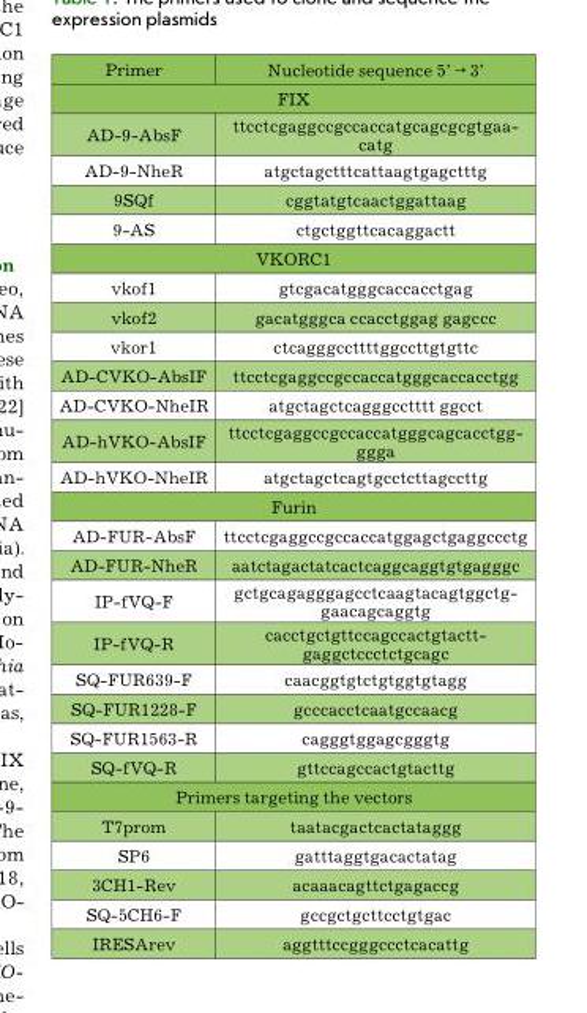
<table><thead><tr><td>Primer</td><td>Nucleotide sequence 5’ → 3’</td></tr></thead><tbody><tr><td colspan="2">FIX</td></tr><tr><td>AD-9-AbsF</td><td>ttcctcgaggccgccaccatgcagcgcgtgaa- catg</td></tr><tr><td>AD-9-NheR</td><td>atgctagctttcattaagtgagctttg</td></tr><tr><td>9SQf</td><td>cggtatgtcaactggattaag</td></tr><tr><td>9-AS</td><td>ctgctggttcacaggactt</td></tr><tr><td colspan="2">VKORC1</td></tr><tr><td>vkof1</td><td>gtcgacatgggcaccacctgag</td></tr><tr><td>vkof2</td><td>gacatgggca ccacctggag gagccc</td></tr><tr><td>vkor1</td><td>ctcagggccttttggccttgtgttc</td></tr><tr><td>AD-CVKO-AbsIF</td><td>ttcctcgaggccgccaccatgggcaccacctgg</td></tr><tr><td>AD-CVKO-NheIR</td><td>atgctagctcagggcctttt ggcct</td></tr><tr><td>AD-hVKO-AbsIF</td><td>ttcctcgaggccgccaccatgggcagcacctgg- ggga</td></tr><tr><td>AD-hVKO-NheIR</td><td>atgctagctcagtgcctcttagccttg</td></tr><tr><td colspan="2">Furin</td></tr><tr><td>AD-FUR-AbsF</td><td>ttcctcgaggccgccaccatggagctgaggccctg</td></tr><tr><td>AD-FUR-NheR</td><td>aatctagactatcactcaggcaggtgtgagggc</td></tr><tr><td>IP-fVQ-F</td><td>gctgcagagggagcctcaagtacagtggctg- gaacagcaggtg</td></tr><tr><td>IP-fVQ-R</td><td>cacctgctgttccagccactgtactt- gaggctccctctgcagc</td></tr><tr><td>SQ-FUR639-F</td><td>caacggtgtctgtggtgtagg</td></tr><tr><td>SQ-FUR1228-F</td><td>gcccacctcaatgccaacg</td></tr><tr><td>SQ-FUR1563-R</td><td>cagggtggagcgggtg</td></tr><tr><td>SQ-fVQ-R</td><td>gttccagccactgtacttg</td></tr><tr><td colspan="2">Primers targeting the vectors</td></tr><tr><td>T7prom</td><td>taatacgactcactataggg</td></tr><tr><td>SP6</td><td>gatttaggtgacactatag</td></tr><tr><td>3CH1-Rev</td><td>acaaacagttctgagaccg</td></tr><tr><td>SQ-5CH6-F</td><td>gccgctgcttcctgtgac</td></tr><tr><td>IRESArev</td><td>aggtttccgggccctcacattg</td></tr></tbody></table>